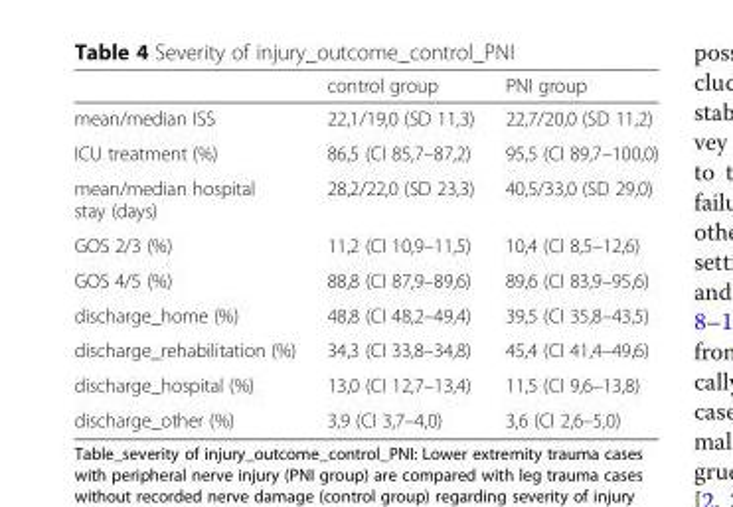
<table><thead><tr><td></td><td>control group</td><td>PNI group</td></tr></thead><tbody><tr><td>mean/median ISS</td><td>22,1/19,0 (SD 11,3)</td><td>22,7/20,0 (SD 11,2)</td></tr><tr><td>ICU treatment (%)</td><td>86,5 (CI 85,7–87,2)</td><td>95,5 (CI 89,7–100,0)</td></tr><tr><td>mean/median hospital stay (days)</td><td>28,2/22,0 (SD 23,3)</td><td>40,5/33,0 (SD 29,0)</td></tr><tr><td>GOS 2/3 (%)</td><td>11,2 (CI 10,9–11,5)</td><td>10,4 (CI 8,5–12,6)</td></tr><tr><td>GOS 4/5 (%)</td><td>88,8 (CI 87,9–89,6)</td><td>89,6 (CI 83,9–95,6)</td></tr><tr><td>discharge_home (%)</td><td>48,8 (CI 48,2–49,4)</td><td>39,5 (CI 35,8–43,5)</td></tr><tr><td>discharge_rehabilitation (%)</td><td>34,3 (CI 33,8–34,8)</td><td>45,4 (CI 41,4–49,6)</td></tr><tr><td>discharge_hospital (%)</td><td>13,0 (CI 12,7–13,4)</td><td>11,5 (CI 9,6–13,8)</td></tr><tr><td>discharge_other (%)</td><td>3,9 (CI 3,7–4,0)</td><td>3,6 (CI 2,6–5,0)</td></tr></tbody></table>